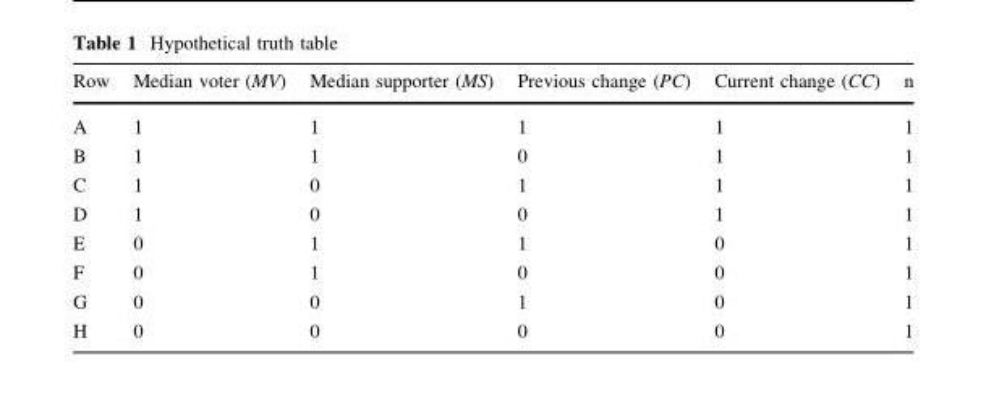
<table><thead><tr><td>Row</td><td>Median voter (MV)</td><td>Median supporter (MS)</td><td>Previous change (PC)</td><td>Current change (CC)</td><td>n</td></tr></thead><tbody><tr><td>A</td><td>1</td><td>1</td><td>1</td><td>1</td><td>1</td></tr><tr><td>B</td><td>1</td><td>1</td><td>0</td><td>1</td><td>1</td></tr><tr><td>C</td><td>1</td><td>0</td><td>1</td><td>1</td><td>1</td></tr><tr><td>D</td><td>1</td><td>0</td><td>0</td><td>1</td><td>1</td></tr><tr><td>E</td><td>0</td><td>1</td><td>1</td><td>0</td><td>1</td></tr><tr><td>F</td><td>0</td><td>1</td><td>0</td><td>0</td><td>1</td></tr><tr><td>G</td><td>0</td><td>0</td><td>1</td><td>0</td><td>1</td></tr><tr><td>H</td><td>0</td><td>0</td><td>0</td><td>0</td><td>1</td></tr></tbody></table>